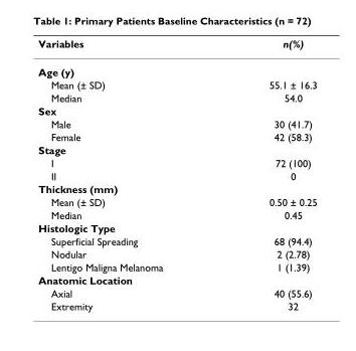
<table><thead><tr><td>Variables</td><td>n(%)</td></tr></thead><tbody><tr><td colspan="2">Age (y)</td></tr><tr><td>Mean (± SD)</td><td>55.1 ± 16.3</td></tr><tr><td>Median</td><td>54.0</td></tr><tr><td colspan="2">Sex</td></tr><tr><td>Male</td><td>30 (41.7)</td></tr><tr><td>Female</td><td>42 (58.3)</td></tr><tr><td colspan="2">Stage</td></tr><tr><td>I</td><td>72 (100)</td></tr><tr><td>II</td><td>0</td></tr><tr><td colspan="2">Thickness (mm)</td></tr><tr><td>Mean (± SD)</td><td>0.50 ± 0.25</td></tr><tr><td>Median</td><td>0.45</td></tr><tr><td colspan="2">Histologic Type</td></tr><tr><td>Superficial Spreading</td><td>68 (94.4)</td></tr><tr><td>Nodular</td><td>2 (2.78)</td></tr><tr><td>Lentigo Maligna Melanoma</td><td>1 (1.39)</td></tr><tr><td colspan="2">Anatomic Location</td></tr><tr><td>Axial</td><td>40 (55.6)</td></tr><tr><td>Extremity</td><td>32</td></tr></tbody></table>